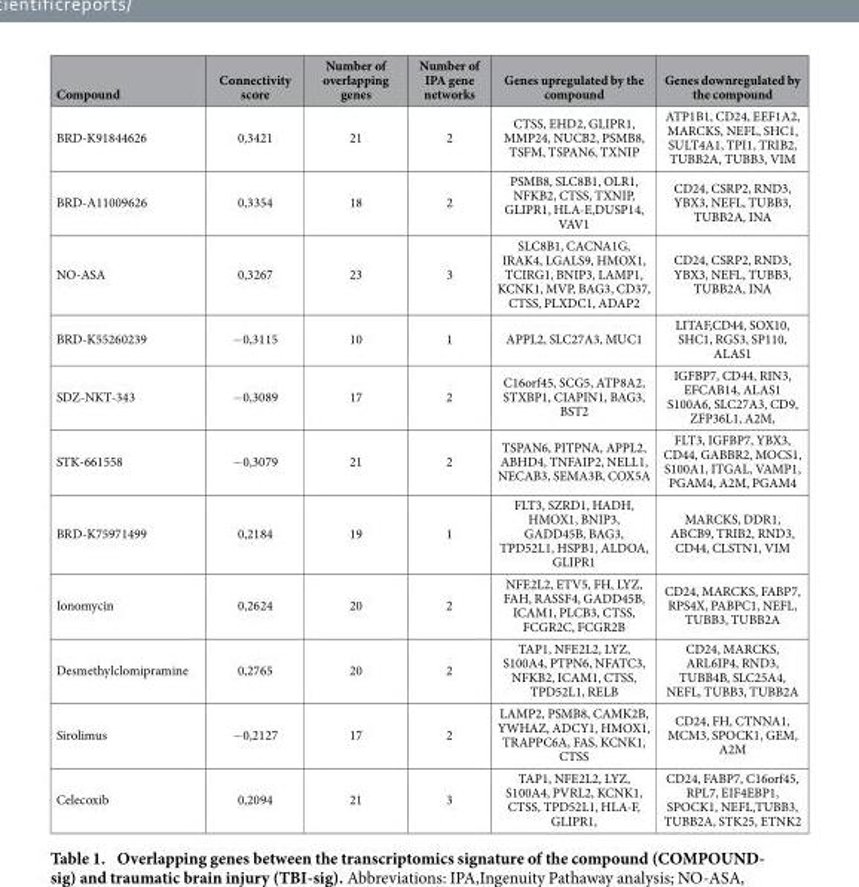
<table><thead><tr><td>Compound</td><td>Connectivity score</td><td>Number of overlapping genes</td><td>Number of IPA gene networks</td><td>Genes upregulated by the compound</td><td>Genes downregulated by the compound</td></tr></thead><tbody><tr><td>BRD-K91844626</td><td>0,3421</td><td>21</td><td>2</td><td>CTSS, EHD2, GLIPR1, MMP24, NUCB2, PSMB8, TSFM, TSPAN6, TXNIP</td><td>ATP1B1, CD24, EEF1A2, MARCKS, NEFL, SHC1, SULT4A1, TPI1, TRIB2, TUBB2A, TUBB3, VIM</td></tr><tr><td>BRD-A11009626</td><td>0,3354</td><td>18</td><td>2</td><td>PSMB8, SLC8B1, OLR1, NFKB2, CTSS, TXNIP, GLIPR1, HLA-E,DUSP14, VAV1</td><td>CD24, CSRP2, RND3, YBX3, NEFL, TUBB3, TUBB2A, INA</td></tr><tr><td>NO-ASA</td><td>0,3267</td><td>23</td><td>3</td><td>SLC8B1, CACNA1G, IRAK4, LGALS9, HMOX1, TCIRG1, BNIP3, LAMP1, KCNK1, MVP, BAG3, CD37, CTSS, PLXDC1, ADAP2</td><td>CD24, CSRP2, RND3, YBX3, NEFL, TUBB3, TUBB2A, INA</td></tr><tr><td>BRD-K55260239</td><td>− 0,3115</td><td>10</td><td>1</td><td>APPL2, SLC27A3, MUC1</td><td>LITAF,CD44, SOX10, SHC1, RGS3, SP110, ALAS1</td></tr><tr><td>SDZ-NKT-343</td><td>− 0,3089</td><td>17</td><td>2</td><td>C16orf45, SCG5, ATP8A2, STXBP1, CIAPIN1, BAG3, BST2</td><td>IGFBP7, CD44, RIN3, EFCAB14, ALAS1 S100A6, SLC27A3, CD9, ZFP36L1, A2M,</td></tr><tr><td>STK-661558</td><td>− 0,3079</td><td>21</td><td>2</td><td>TSPAN6, PITPNA, APPL2, ABHD4, TNFAIP2, NELL1, NECAB3, SEMA3B, COX5A</td><td>FLT3, IGFBP7, YBX3, CD44, GABBR2, MOCS1, S100A1, ITGAL, VAMP1, PGAM4, A2M, PGAM4</td></tr><tr><td>BRD-K75971499</td><td>0,2184</td><td>19</td><td>1</td><td>FLT3, SZRD1, HADH, HMOX1, BNIP3, GADD45B, BAG3, TPD52L1, HSPB1, ALDOA, GLIPR1</td><td>MARCKS, DDR1, ABCB9, TRIB2, RND3, CD44, CLSTN1, VIM</td></tr><tr><td>Ionomycin</td><td>0,2624</td><td>20</td><td>2</td><td>NFE2L2, ETV5, FH, LYZ, FAH, RASSF4, GADD45B, ICAM1, PLCB3, CTSS, FCGR2C, FCGR2B</td><td>CD24, MARCKS, FABP7, RPS4X, PABPC1, NEFL, TUBB3, TUBB2A</td></tr><tr><td>Desmethylclomipramine</td><td>0,2765</td><td>20</td><td>2</td><td>TAP1, NFE2L2, LYZ, S100A4, PTPN6, NFATC3, NFKB2, ICAM1, CTSS, TPD52L1, RELB</td><td>CD24, MARCKS, ARL6IP4, RND3, TUBB4B, SLC25A4, NEFL, TUBB3, TUBB2A</td></tr><tr><td>Sirolimus</td><td>− 0,2127</td><td>17</td><td>2</td><td>LAMP2, PSMB8, CAMK2B, YWHAZ, ADCY1, HMOX1, TRAPPC6A, FAS, KCNK1, CTSS</td><td>CD24, FH, CTNNA1, MCM3, SPOCK1, GEM, A2M</td></tr><tr><td>Celecoxib</td><td>0,2094</td><td>21</td><td>3</td><td>TAP1, NFE2L2, LYZ, S100A4, PVRL2, KCNK1, CTSS, TPD52L1, HLA-F, GLIPR1,</td><td>CD24, FABP7, C16orf45, RPL7, EIF4EBP1, SPOCK1, NEFL,TUBB3, TUBB2A, STK25, ETNK2</td></tr></tbody></table>